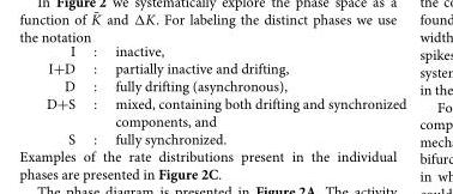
<table><tbody><tr><td>I</td><td>:</td><td>inactive,</td></tr><tr><td>I+D</td><td>:</td><td>partially inactive and drifting,</td></tr><tr><td>D</td><td>:</td><td>fully drifting (asynchronous),</td></tr><tr><td>D+S</td><td>:</td><td>mixed, containing both drifting and synchronized components, and</td></tr><tr><td>S</td><td>:</td><td>fully synchronized.</td></tr></tbody></table>